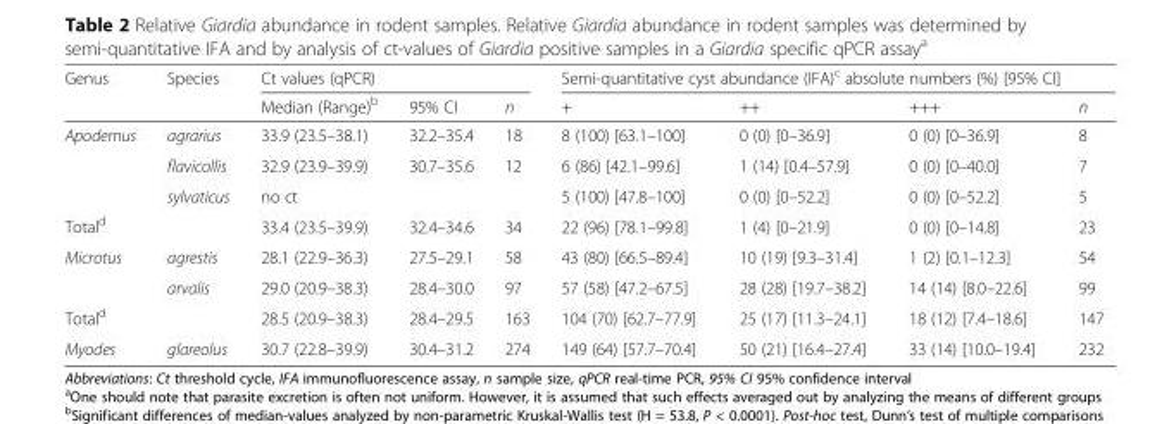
<table><thead><tr><td rowspan="2">Genus</td><td rowspan="2">Species</td><td colspan="3">Ct values (qPCR)</td><td colspan="4">Semi-quantitative cyst abundance (IFA)<sup>c</sup> absolute numbers (%) [95% CI]</td></tr><tr><td>Median (Range)<sup>b</sup></td><td>95% CI</td><td>n</td><td>+</td><td>++</td><td>+++</td><td>n</td></tr></thead><tbody><tr><td rowspan="3">Apodemus</td><td>agrarius</td><td>33.9 (23.5–38.1)</td><td>32.2–35.4</td><td>18</td><td>8 (100) [63.1–100]</td><td>0 (0) [0–36.9]</td><td>0 (0) [0–36.9]</td><td>8</td></tr><tr><td>flavicollis</td><td>32.9 (23.9–39.9)</td><td>30.7–35.6</td><td>12</td><td>6 (86) [42.1–99.6]</td><td>1 (14) [0.4–57.9]</td><td>0 (0) [0–40.0]</td><td>7</td></tr><tr><td>sylvaticus</td><td>no ct</td><td></td><td></td><td>5 (100) [47.8–100]</td><td>0 (0) [0–52.2]</td><td>0 (0) [0–52.2]</td><td>5</td></tr><tr><td>Total<sup>d</sup></td><td></td><td>33.4 (23.5–39.9)</td><td>32.4–34.6</td><td>34</td><td>22 (96) [78.1–99.8]</td><td>1 (4) [0–21.9]</td><td>0 (0) [0–14.8]</td><td>23</td></tr><tr><td rowspan="2">Microtus</td><td>agrestis</td><td>28.1 (22.9–36.3)</td><td>27.5–29.1</td><td>58</td><td>43 (80) [66.5–89.4]</td><td>10 (19) [9.3–31.4]</td><td>1 (2) [0.1–12.3]</td><td>54</td></tr><tr><td>arvalis</td><td>29.0 (20.9–38.3)</td><td>28.4–30.0</td><td>97</td><td>57 (58) [47.2–67.5]</td><td>28 (28) [19.7–38.2]</td><td>14 (14) [8.0–22.6]</td><td>99</td></tr><tr><td>Total<sup>d</sup></td><td></td><td>28.5 (20.9–38.3)</td><td>28.4–29.5</td><td>163</td><td>104 (70) [62.7–77.9]</td><td>25 (17) [11.3–24.1]</td><td>18 (12) [7.4–18.6]</td><td>147</td></tr><tr><td>Myodes</td><td>glareolus</td><td>30.7 (22.8–39.9)</td><td>30.4–31.2</td><td>274</td><td>149 (64) [57.7–70.4]</td><td>50 (21) [16.4–27.4]</td><td>33 (14) [10.0–19.4]</td><td>232</td></tr></tbody></table>